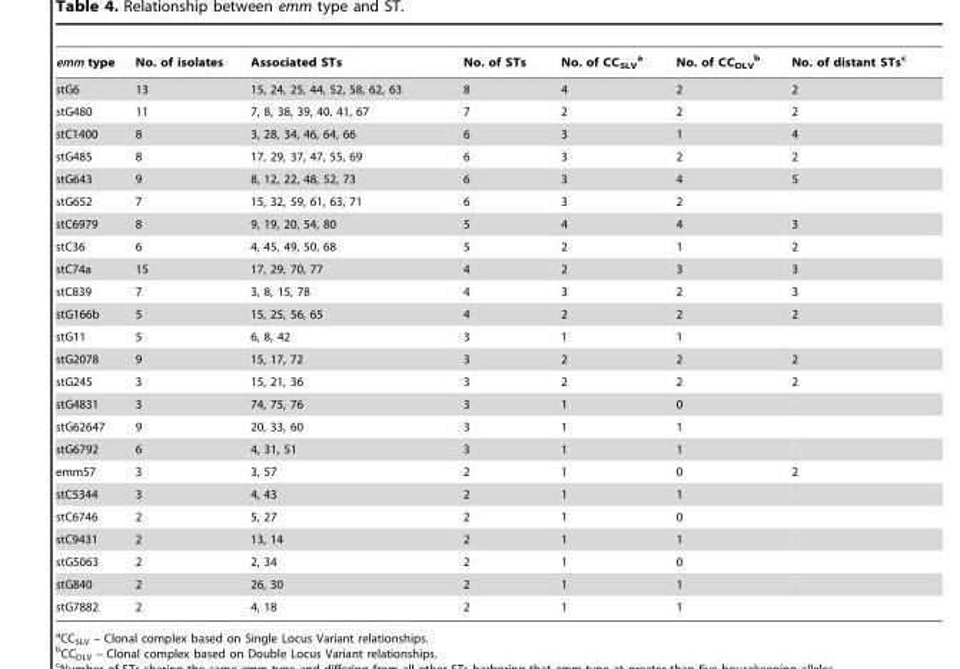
<table><thead><tr><td>emm type</td><td>No. of isolates</td><td>Associated STs</td><td>No. of STs</td><td>No. of CC<sub>SLV</sub> a</td><td>No. of CC<sub>DLV</sub> b</td><td>No. of distant STs<sup>c</sup></td></tr></thead><tbody><tr><td>stG6</td><td>13</td><td>15, 24, 25, 44, 52, 58, 62, 63</td><td>8</td><td>4</td><td>2</td><td>2</td></tr><tr><td>stG480</td><td>11</td><td>7, 8, 38, 39, 40, 41, 67</td><td>7</td><td>2</td><td>2</td><td>2</td></tr><tr><td>stC1400</td><td>8</td><td>3, 28, 34, 46, 64, 66</td><td>6</td><td>3</td><td>1</td><td>4</td></tr><tr><td>stG485</td><td>8</td><td>17, 29, 37, 47, 55, 69</td><td>6</td><td>3</td><td>2</td><td>2</td></tr><tr><td>stG643</td><td>9</td><td>8, 12, 22, 48, 52, 73</td><td>6</td><td>3</td><td>4</td><td>5</td></tr><tr><td>stG652</td><td>7</td><td>15, 32, 59, 61, 63, 71</td><td>6</td><td>3</td><td>2</td><td></td></tr><tr><td>stC6979</td><td>8</td><td>9, 19, 20, 54, 80</td><td>5</td><td>4</td><td>4</td><td>3</td></tr><tr><td>stC36</td><td>6</td><td>4, 45, 49, 50, 68</td><td>5</td><td>2</td><td>1</td><td>2</td></tr><tr><td>stC74a</td><td>15</td><td>17, 29, 70, 77</td><td>4</td><td>2</td><td>3</td><td>3</td></tr><tr><td>stC839</td><td>7</td><td>3, 8, 15, 78</td><td>4</td><td>3</td><td>2</td><td>3</td></tr><tr><td>stG166b</td><td>5</td><td>15, 25, 56, 65</td><td>4</td><td>2</td><td>2</td><td>2</td></tr><tr><td>stG11</td><td>5</td><td>6, 8, 42</td><td>3</td><td>1</td><td>1</td><td></td></tr><tr><td>stG2078</td><td>9</td><td>15, 17, 72</td><td>3</td><td>2</td><td>2</td><td>2</td></tr><tr><td>stG245</td><td>3</td><td>15, 21, 36</td><td>3</td><td>2</td><td>2</td><td>2</td></tr><tr><td>stG4831</td><td>3</td><td>74, 75, 76</td><td>3</td><td>1</td><td>0</td><td></td></tr><tr><td>stG62647</td><td>9</td><td>20, 33, 60</td><td>3</td><td>1</td><td>1</td><td></td></tr><tr><td>stG6792</td><td>6</td><td>4, 31, 51</td><td>3</td><td>1</td><td>1</td><td></td></tr><tr><td>emm57</td><td>3</td><td>3, 57</td><td>2</td><td>1</td><td>0</td><td>2</td></tr><tr><td>stC5344</td><td>3</td><td>4, 43</td><td>2</td><td>1</td><td>1</td><td></td></tr><tr><td>stC6746</td><td>2</td><td>5, 27</td><td>2</td><td>1</td><td>0</td><td></td></tr><tr><td>stC9431</td><td>2</td><td>13, 14</td><td>2</td><td>1</td><td>1</td><td></td></tr><tr><td>stG5063</td><td>2</td><td>2, 34</td><td>2</td><td>1</td><td>0</td><td></td></tr><tr><td>stG840</td><td>2</td><td>26, 30</td><td>2</td><td>1</td><td>1</td><td></td></tr><tr><td>stG7882</td><td>2</td><td>4, 18</td><td>2</td><td>1</td><td>1</td><td></td></tr></tbody></table>